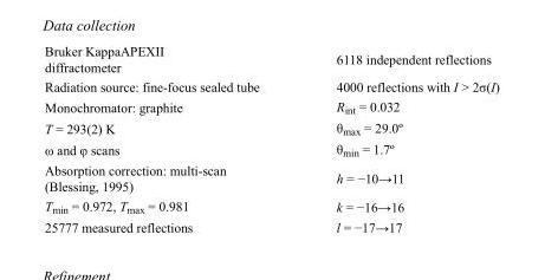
<table><tbody><tr><td>Bruker KappaAPEXII diffractometer</td><td>6118 independent reflections</td></tr><tr><td>Radiation source: fine-focus sealed tube</td><td>4000 reflections with I &gt; 2σ(I)</td></tr><tr><td>Monochromator: graphite</td><td>R<sub>int</sub> = 0.032</td></tr><tr><td>T = 293(2) K</td><td>θ<sub>max</sub> = 29.0º</td></tr><tr><td>ω and φ scans</td><td>θ<sub>min</sub> = 1.7º</td></tr><tr><td>Absorption correction: multi-scan (Blessing, 1995)</td><td>h = −10→11</td></tr><tr><td>T<sub>min</sub> = 0.972, T<sub>max</sub> = 0.981</td><td>k = −16→16</td></tr><tr><td>25777 measured reflections</td><td>l = −17→17</td></tr></tbody></table>